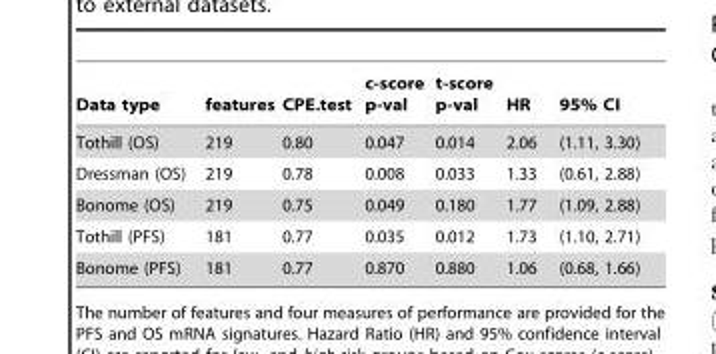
<table><thead><tr><td>Data type</td><td>features</td><td>CPE.test</td><td>c-score p-val</td><td>t-score p-val</td><td>HR</td><td>95% CI</td></tr></thead><tbody><tr><td>Tothill (OS)</td><td>219</td><td>0.80</td><td>0.047</td><td>0.014</td><td>2.06</td><td>(1.11, 3.30)</td></tr><tr><td>Dressman (OS)</td><td>219</td><td>0.78</td><td>0.008</td><td>0.033</td><td>1.33</td><td>(0.61, 2.88)</td></tr><tr><td>Bonome (OS)</td><td>219</td><td>0.75</td><td>0.049</td><td>0.180</td><td>1.77</td><td>(1.09, 2.88)</td></tr><tr><td>Tothill (PFS)</td><td>181</td><td>0.77</td><td>0.035</td><td>0.012</td><td>1.73</td><td>(1.10, 2.71)</td></tr><tr><td>Bonome (PFS)</td><td>181</td><td>0.77</td><td>0.870</td><td>0.880</td><td>1.06</td><td>(0.68, 1.66)</td></tr></tbody></table>